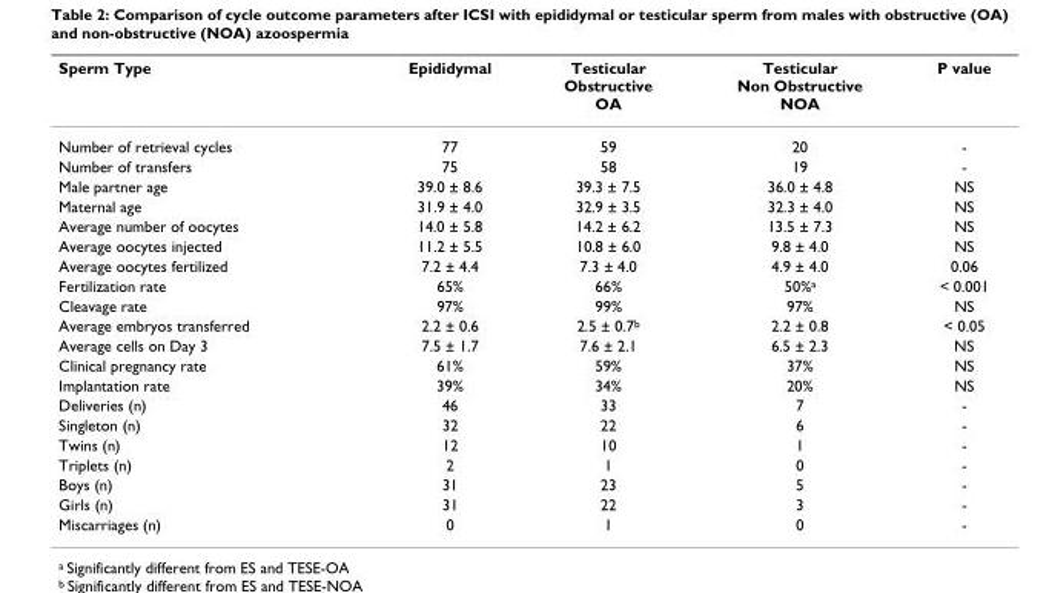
<table><thead><tr><td>Sperm Type</td><td>Epididymal</td><td>Testicular Obstructive OA</td><td>Testicular Non Obstructive NOA</td><td>P value</td></tr></thead><tbody><tr><td>Number of retrieval cycles</td><td>77</td><td>59</td><td>20</td><td>-</td></tr><tr><td>Number of transfers</td><td>75</td><td>58</td><td>19</td><td>-</td></tr><tr><td>Male partner age</td><td>39.0 ± 8.6</td><td>39.3 ± 7.5</td><td>36.0 ± 4.8</td><td>NS</td></tr><tr><td>Maternal age</td><td>31.9 ± 4.0</td><td>32.9 ± 3.5</td><td>32.3 ± 4.0</td><td>NS</td></tr><tr><td>Average number of oocytes</td><td>14.0 ± 5.8</td><td>14.2 ± 6.2</td><td>13.5 ± 7.3</td><td>NS</td></tr><tr><td>Average oocytes injected</td><td>11.2 ± 5.5</td><td>10.8 ± 6.0</td><td>9.8 ± 4.0</td><td>NS</td></tr><tr><td>Average oocytes fertilized</td><td>7.2 ± 4.4</td><td>7.3 ± 4.0</td><td>4.9 ± 4.0</td><td>0.06</td></tr><tr><td>Fertilization rate</td><td>65%</td><td>66%</td><td>50%<sup>a</sup></td><td>&lt; 0.001</td></tr><tr><td>Cleavage rate</td><td>97%</td><td>99%</td><td>97%</td><td>NS</td></tr><tr><td>Average embryos transferred</td><td>2.2 ± 0.6</td><td>2.5 ± 0.7<sup>b</sup></td><td>2.2 ± 0.8</td><td>&lt; 0.05</td></tr><tr><td>Average cells on Day 3</td><td>7.5 ± 1.7</td><td>7.6 ± 2.1</td><td>6.5 ± 2.3</td><td>NS</td></tr><tr><td>Clinical pregnancy rate</td><td>61%</td><td>59%</td><td>37%</td><td>NS</td></tr><tr><td>Implantation rate</td><td>39%</td><td>34%</td><td>20%</td><td>NS</td></tr><tr><td>Deliveries (n)</td><td>46</td><td>33</td><td>7</td><td>-</td></tr><tr><td>Singleton (n)</td><td>32</td><td>22</td><td>6</td><td>-</td></tr><tr><td>Twins (n)</td><td>12</td><td>10</td><td>1</td><td>-</td></tr><tr><td>Triplets (n)</td><td>2</td><td>1</td><td>0</td><td>-</td></tr><tr><td>Boys (n)</td><td>31</td><td>23</td><td>5</td><td>-</td></tr><tr><td>Girls (n)</td><td>31</td><td>22</td><td>3</td><td>-</td></tr><tr><td>Miscarriages (n)</td><td>0</td><td>1</td><td>0</td><td>-</td></tr></tbody></table>